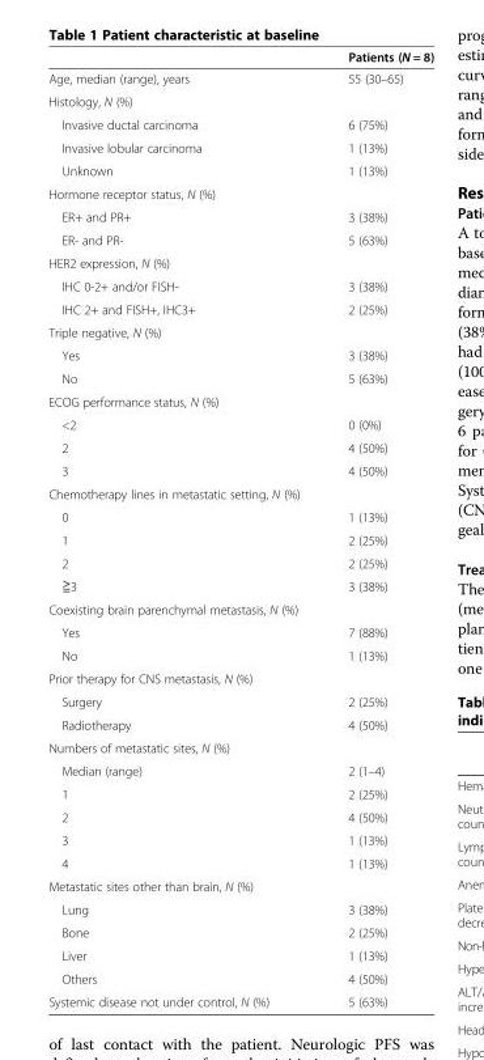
<table><thead><tr><td></td><td>Patients (N = 8)</td></tr></thead><tbody><tr><td>Age, median (range), years</td><td>55 (30–65)</td></tr><tr><td colspan="2">Histology, N (%)</td></tr><tr><td>Invasive ductal carcinoma</td><td>6 (75%)</td></tr><tr><td>Invasive lobular carcinoma</td><td>1 (13%)</td></tr><tr><td>Unknown</td><td>1 (13%)</td></tr><tr><td colspan="2">Hormone receptor status, N (%)</td></tr><tr><td>ER+ and PR+</td><td>3 (38%)</td></tr><tr><td>ER- and PR-</td><td>5 (63%)</td></tr><tr><td colspan="2">HER2 expression, N (%)</td></tr><tr><td>IHC 0-2+ and/or FISH-</td><td>3 (38%)</td></tr><tr><td>IHC 2+ and FISH+, IHC3+</td><td>2 (25%)</td></tr><tr><td colspan="2">Triple negative, N (%)</td></tr><tr><td>Yes</td><td>3 (38%)</td></tr><tr><td>No</td><td>5 (63%)</td></tr><tr><td colspan="2">ECOG performance status, N (%)</td></tr><tr><td>&lt;2</td><td>0 (0%)</td></tr><tr><td>2</td><td>4 (50%)</td></tr><tr><td>3</td><td>4 (50%)</td></tr><tr><td colspan="2">Chemotherapy lines in metastatic setting, N (%)</td></tr><tr><td>0</td><td>1 (13%)</td></tr><tr><td>1</td><td>2 (25%)</td></tr><tr><td>2</td><td>2 (25%)</td></tr><tr><td>≧3</td><td>3 (38%)</td></tr><tr><td colspan="2">Coexisting brain parenchymal metastasis, N (%)</td></tr><tr><td>Yes</td><td>7 (88%)</td></tr><tr><td>No</td><td>1 (13%)</td></tr><tr><td colspan="2">Prior therapy for CNS metastasis, N (%)</td></tr><tr><td>Surgery</td><td>2 (25%)</td></tr><tr><td>Radiotherapy</td><td>4 (50%)</td></tr><tr><td colspan="2">Numbers of metastatic sites, N (%)</td></tr><tr><td>Median (range)</td><td>2 (1–4)</td></tr><tr><td>1</td><td>2 (25%)</td></tr><tr><td>2</td><td>4 (50%)</td></tr><tr><td>3</td><td>1 (13%)</td></tr><tr><td>4</td><td>1 (13%)</td></tr><tr><td colspan="2">Metastatic sites other than brain, N (%)</td></tr><tr><td>Lung</td><td>3 (38%)</td></tr><tr><td>Bone</td><td>2 (25%)</td></tr><tr><td>Liver</td><td>1 (13%)</td></tr><tr><td>Others</td><td>4 (50%)</td></tr><tr><td>Systemic disease not under control, N (%)</td><td>5 (63%)</td></tr></tbody></table>